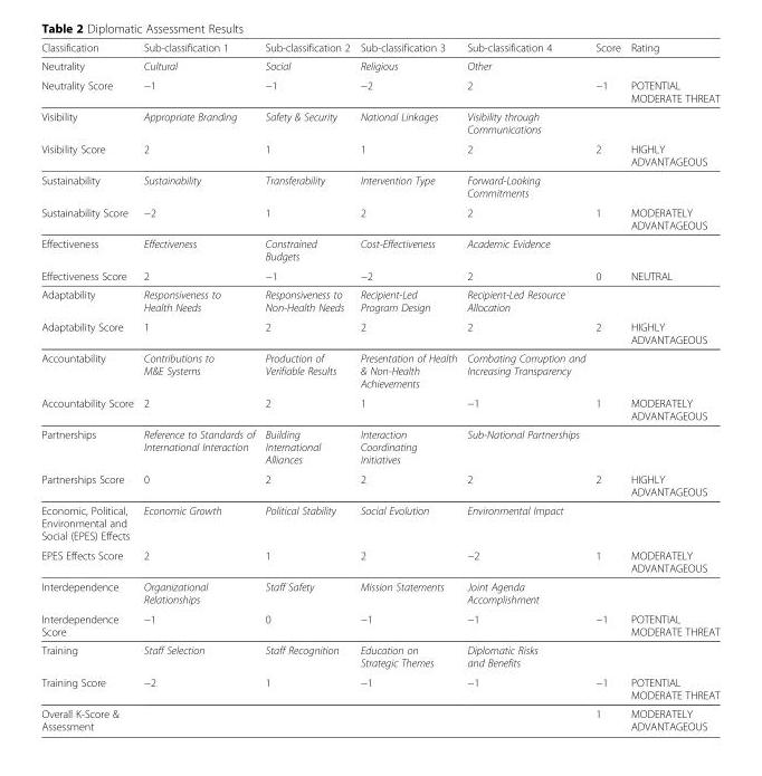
<table><thead><tr><td>Classification</td><td>Sub-classification 1</td><td>Sub-classification 2</td><td>Sub-classification 3</td><td>Sub-classification 4</td><td>Score</td><td>Rating</td></tr></thead><tbody><tr><td>Neutrality</td><td>Cultural</td><td>Social</td><td>Religious</td><td>Other</td><td></td><td></td></tr><tr><td>Neutrality Score</td><td>−1</td><td>−1</td><td>−2</td><td>2</td><td>−1</td><td>POTENTIAL MODERATE THREAT</td></tr><tr><td>Visibility</td><td>Appropriate Branding</td><td>Safety &amp; Security</td><td>National Linkages</td><td>Visibility through Communications</td><td></td><td></td></tr><tr><td>Visibility Score</td><td>2</td><td>1</td><td>1</td><td>2</td><td>2</td><td>HIGHLY ADVANTAGEOUS</td></tr><tr><td>Sustainability</td><td>Sustainability</td><td>Transferability</td><td>Intervention Type</td><td>Forward-Looking Commitments</td><td></td><td></td></tr><tr><td>Sustainability Score</td><td>−2</td><td>1</td><td>2</td><td>2</td><td>1</td><td>MODERATELY ADVANTAGEOUS</td></tr><tr><td>Effectiveness</td><td>Effectiveness</td><td>Constrained Budgets</td><td>Cost-Effectiveness</td><td>Academic Evidence</td><td></td><td></td></tr><tr><td>Effectiveness Score</td><td>2</td><td>−1</td><td>−2</td><td>2</td><td>0</td><td>NEUTRAL</td></tr><tr><td>Adaptability</td><td>Responsiveness to Health Needs</td><td>Responsiveness to Non-Health Needs</td><td>Recipient-Led Program Design</td><td>Recipient-Led Resource Allocation</td><td></td><td></td></tr><tr><td>Adaptability Score</td><td>1</td><td>2</td><td>2</td><td>2</td><td>2</td><td>HIGHLY ADVANTAGEOUS</td></tr><tr><td>Accountability</td><td>Contributions to M&amp;E Systems</td><td>Production of Verifiable Results</td><td>Presentation of Health &amp; Non-Health Achievements</td><td>Combating Corruption and Increasing Transparency</td><td></td><td></td></tr><tr><td>Accountability Score</td><td>2</td><td>2</td><td>1</td><td>−1</td><td>1</td><td>MODERATELY ADVANTAGEOUS</td></tr><tr><td>Partnerships</td><td>Reference to Standards of International Interaction</td><td>Building International Alliances</td><td>Interaction Coordinating Initiatives</td><td>Sub-National Partnerships</td><td></td><td></td></tr><tr><td>Partnerships Score</td><td>0</td><td>2</td><td>2</td><td>2</td><td>2</td><td>HIGHLY ADVANTAGEOUS</td></tr><tr><td>Economic, Political, Environmental and Social (EPES) Effects</td><td>Economic Growth</td><td>Political Stability</td><td>Social Evolution</td><td>Environmental Impact</td><td></td><td></td></tr><tr><td>EPES Effects Score</td><td>2</td><td>1</td><td>2</td><td>−2</td><td>1</td><td>MODERATELY ADVANTAGEOUS</td></tr><tr><td>Interdependence</td><td>Organizational Relationships</td><td>Staff Safety</td><td>Mission Statements</td><td>Joint Agenda Accomplishment</td><td></td><td></td></tr><tr><td>Interdependence Score</td><td>−1</td><td>0</td><td>−1</td><td>−1</td><td>−1</td><td>POTENTIAL MODERATE THREAT</td></tr><tr><td>Training</td><td>Staff Selection</td><td>Staff Recognition</td><td>Education on Strategic Themes</td><td>Diplomatic Risks and Benefits</td><td></td><td></td></tr><tr><td>Training Score</td><td>−2</td><td>1</td><td>−1</td><td>−1</td><td>−1</td><td>POTENTIAL MODERATE THREAT</td></tr><tr><td colspan="5">Overall K-Score &amp; Assessment</td><td>1</td><td>MODERATELY ADVANTAGEOUS</td></tr></tbody></table>